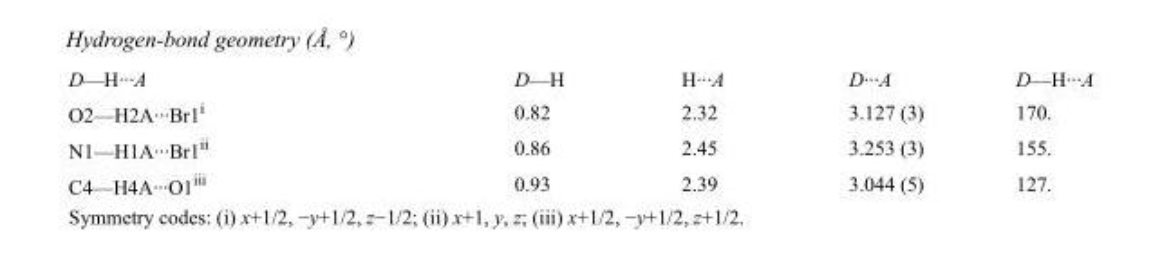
<table><tbody><tr><td>D—H···A</td><td>D—H</td><td>H···A</td><td>D···A</td><td>D—H···A</td></tr><tr><td>O2—H2A···Br1<sup>i</sup></td><td>0.82</td><td>2.32</td><td>3.127 (3)</td><td>170.</td></tr><tr><td>N1—H1A···Br1<sup>ii</sup></td><td>0.86</td><td>2.45</td><td>3.253 (3)</td><td>155.</td></tr><tr><td>C4—H4A···O1<sup>iii</sup></td><td>0.93</td><td>2.39</td><td>3.044 (5)</td><td>127.</td></tr></tbody></table>